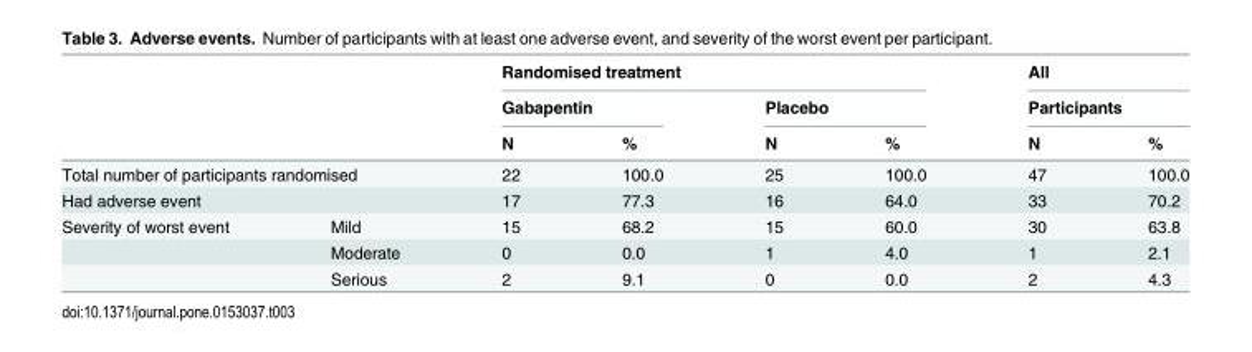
<table><thead><tr><td rowspan="3"></td><td rowspan="3"></td><td colspan="4">Randomised treatment</td><td rowspan="2" colspan="2">All Participants</td></tr><tr><td colspan="2">Gabapentin</td><td colspan="2">Placebo</td></tr><tr><td>N</td><td>%</td><td>N</td><td>%</td><td>N</td><td>%</td></tr></thead><tbody><tr><td colspan="2">Total number of participants randomised</td><td>22</td><td>100.0</td><td>25</td><td>100.0</td><td>47</td><td>100.0</td></tr><tr><td>Had adverse event</td><td></td><td>17</td><td>77.3</td><td>16</td><td>64.0</td><td>33</td><td>70.2</td></tr><tr><td rowspan="3">Severity of worst event</td><td>Mild</td><td>15</td><td>68.2</td><td>15</td><td>60.0</td><td>30</td><td>63.8</td></tr><tr><td>Moderate</td><td>0</td><td>0.0</td><td>1</td><td>4.0</td><td>1</td><td>2.1</td></tr><tr><td>Serious</td><td>2</td><td>9.1</td><td>0</td><td>0.0</td><td>2</td><td>4.3</td></tr></tbody></table>